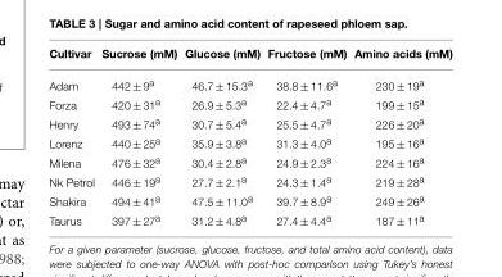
<table><thead><tr><td>Cultivar</td><td>Sucrose (mM)</td><td>Glucose (mM)</td><td>Fructose (mM)</td><td>Amino acids (mM)</td></tr></thead><tbody><tr><td>Adam</td><td>442 ± 9<sup>a</sup></td><td>46.7 ± 15.3<sup>a</sup></td><td>38.8 ± 11.6<sup>a</sup></td><td>230 ± 19<sup>a</sup></td></tr><tr><td>Forza</td><td>420 ± 31<sup>a</sup></td><td>26.9 ± 5.3<sup>a</sup></td><td>22.4 ± 4.7<sup>a</sup></td><td>199 ± 15<sup>a</sup></td></tr><tr><td>Henry</td><td>493 ± 74<sup>a</sup></td><td>30.7 ± 5.4<sup>a</sup></td><td>25.5 ± 4.7<sup>a</sup></td><td>226 ± 20<sup>a</sup></td></tr><tr><td>Lorenz</td><td>440 ± 25<sup>a</sup></td><td>35.9 ± 3.8<sup>a</sup></td><td>31.3 ± 4.0<sup>a</sup></td><td>195 ± 16<sup>a</sup></td></tr><tr><td>Milena</td><td>476 ± 32<sup>a</sup></td><td>30.4 ± 2.8<sup>a</sup></td><td>24.9 ± 2.3<sup>a</sup></td><td>224 ± 16<sup>a</sup></td></tr><tr><td>Nk Petrol</td><td>446 ± 19<sup>a</sup></td><td>27.7 ± 2.1<sup>a</sup></td><td>24.3 ± 1.4<sup>a</sup></td><td>219 ± 28<sup>a</sup></td></tr><tr><td>Shakira</td><td>494 ± 41<sup>a</sup></td><td>47.5 ± 11.0<sup>a</sup></td><td>39.7 ± 8.9<sup>a</sup></td><td>249 ± 26<sup>a</sup></td></tr><tr><td>Taurus</td><td>397 ± 27<sup>a</sup></td><td>31.2 ± 4.8<sup>a</sup></td><td>27.4 ± 4.4<sup>a</sup></td><td>187 ± 11<sup>a</sup></td></tr></tbody></table>